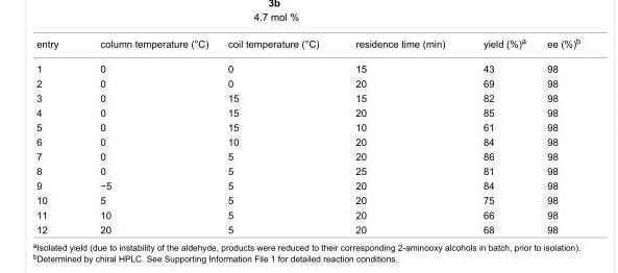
<table><tbody><tr><td>entry</td><td>column temperature (°C)</td><td>coil temperature (°C)</td><td>residence time (min)</td><td>yield (%)<sup>a</sup></td><td>ee (%)<sup>b</sup></td></tr><tr><td>1</td><td>0</td><td>0</td><td>15</td><td>43</td><td>98</td></tr><tr><td>2</td><td>0</td><td>0</td><td>20</td><td>69</td><td>98</td></tr><tr><td>3</td><td>0</td><td>15</td><td>15</td><td>82</td><td>98</td></tr><tr><td>4</td><td>0</td><td>15</td><td>20</td><td>85</td><td>98</td></tr><tr><td>5</td><td>0</td><td>15</td><td>10</td><td>61</td><td>98</td></tr><tr><td>6</td><td>0</td><td>10</td><td>20</td><td>84</td><td>98</td></tr><tr><td>7</td><td>0</td><td>5</td><td>20</td><td>86</td><td>98</td></tr><tr><td>8</td><td>0</td><td>5</td><td>25</td><td>81</td><td>98</td></tr><tr><td>9</td><td>−5</td><td>5</td><td>20</td><td>84</td><td>98</td></tr><tr><td>10</td><td>5</td><td>5</td><td>20</td><td>75</td><td>98</td></tr><tr><td>11</td><td>10</td><td>5</td><td>20</td><td>66</td><td>98</td></tr><tr><td>12</td><td>20</td><td>5</td><td>20</td><td>68</td><td>98</td></tr></tbody></table>